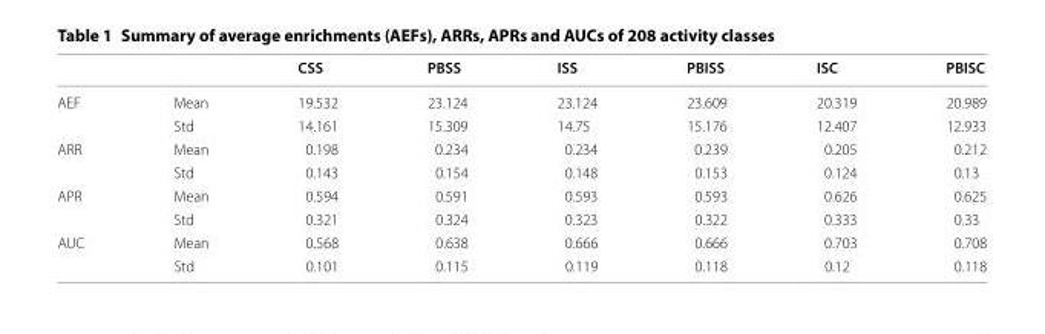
<table><thead><tr><td></td><td></td><td>CSS</td><td>PBSS</td><td>ISS</td><td>PBISS</td><td>ISC</td><td>PBISC</td></tr></thead><tbody><tr><td rowspan="2">AEF</td><td>Mean</td><td>19.532</td><td>23.124</td><td>23.124</td><td>23.609</td><td>20.319</td><td>20.989</td></tr><tr><td>Std</td><td>14.161</td><td>15.309</td><td>14.75</td><td>15.176</td><td>12.407</td><td>12.933</td></tr><tr><td rowspan="2">ARR</td><td>Mean</td><td>0.198</td><td>0.234</td><td>0.234</td><td>0.239</td><td>0.205</td><td>0.212</td></tr><tr><td>Std</td><td>0.143</td><td>0.154</td><td>0.148</td><td>0.153</td><td>0.124</td><td>0.13</td></tr><tr><td rowspan="2">APR</td><td>Mean</td><td>0.594</td><td>0.591</td><td>0.593</td><td>0.593</td><td>0.626</td><td>0.625</td></tr><tr><td>Std</td><td>0.321</td><td>0.324</td><td>0.323</td><td>0.322</td><td>0.333</td><td>0.33</td></tr><tr><td rowspan="2">AUC</td><td>Mean</td><td>0.568</td><td>0.638</td><td>0.666</td><td>0.666</td><td>0.703</td><td>0.708</td></tr><tr><td>Std</td><td>0.101</td><td>0.115</td><td>0.119</td><td>0.118</td><td>0.12</td><td>0.118</td></tr></tbody></table>